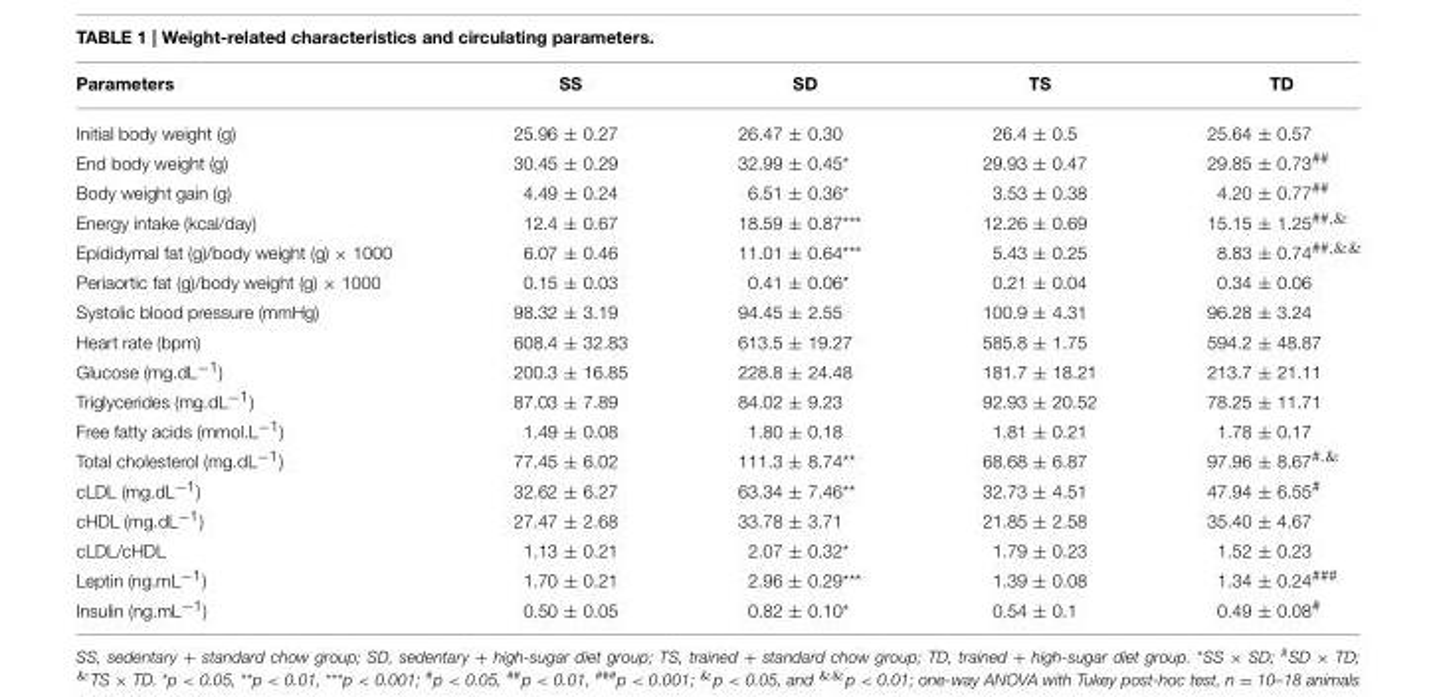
<table><thead><tr><td>Parameters</td><td>SS</td><td>SD</td><td>TS</td><td>TD</td></tr></thead><tbody><tr><td>Initial body weight (g)</td><td>25.96 ± 0.27</td><td>26.47 ± 0.30</td><td>26.4 ± 0.5</td><td>25.64 ± 0.57</td></tr><tr><td>End body weight (g)</td><td>30.45 ± 0.29</td><td>32.99 ± 0.45*</td><td>29.93 ± 0.47</td><td>29.85 ± 0.73<sup>##</sup></td></tr><tr><td>Body weight gain (g)</td><td>4.49 ± 0.24</td><td>6.51 ± 0.36*</td><td>3.53 ± 0.38</td><td>4.20 ± 0.77<sup>##</sup></td></tr><tr><td>Energy intake (kcal/day)</td><td>12.4 ± 0.67</td><td>18.59 ± 0.87***</td><td>12.26 ± 0.69</td><td>15.15 ± 1.25<sup>##,&amp;</sup></td></tr><tr><td>Epididymal fat (g)/body weight (g) × 1000</td><td>6.07 ± 0.46</td><td>11.01 ± 0.64***</td><td>5.43 ± 0.25</td><td>8.83 ± 0.74<sup>##,&amp;&amp;</sup></td></tr><tr><td>Periaortic fat (g)/body weight (g) × 1000</td><td>0.15 ± 0.03</td><td>0.41 ± 0.06*</td><td>0.21 ± 0.04</td><td>0.34 ± 0.06</td></tr><tr><td>Systolic blood pressure (mmHg)</td><td>98.32 ± 3.19</td><td>94.45 ± 2.55</td><td>100.9 ± 4.31</td><td>96.28 ± 3.24</td></tr><tr><td>Heart rate (bpm)</td><td>608.4 ± 32.83</td><td>613.5 ± 19.27</td><td>585.8 ± 1.75</td><td>594.2 ± 48.87</td></tr><tr><td>Glucose (mg.dL<sup>−1</sup>)</td><td>200.3 ± 16.85</td><td>228.8 ± 24.48</td><td>181.7 ± 18.21</td><td>213.7 ± 21.11</td></tr><tr><td>Triglycerides (mg.dL<sup>−1</sup>)</td><td>87.03 ± 7.89</td><td>84.02 ± 9.23</td><td>92.93 ± 20.52</td><td>78.25 ± 11.71</td></tr><tr><td>Free fatty acids (mmol.L<sup>−1</sup>)</td><td>1.49 ± 0.08</td><td>1.80 ± 0.18</td><td>1.81 ± 0.21</td><td>1.78 ± 0.17</td></tr><tr><td>Total cholesterol (mg.dL<sup>−1</sup>)</td><td>77.45 ± 6.02</td><td>111.3 ± 8.74**</td><td>68.68 ± 6.87</td><td>97.96 ± 8.67<sup>#,&amp;</sup></td></tr><tr><td>cLDL (mg.dL<sup>−1</sup>)</td><td>32.62 ± 6.27</td><td>63.34 ± 7.46**</td><td>32.73 ± 4.51</td><td>47.94 ± 6.55<sup>#</sup></td></tr><tr><td>cHDL (mg.dL<sup>−1</sup>)</td><td>27.47 ± 2.68</td><td>33.78 ± 3.71</td><td>21.85 ± 2.58</td><td>35.40 ± 4.67</td></tr><tr><td>cLDL/cHDL</td><td>1.13 ± 0.21</td><td>2.07 ± 0.32*</td><td>1.79 ± 0.23</td><td>1.52 ± 0.23</td></tr><tr><td>Leptin (ng.mL<sup>−1</sup>)</td><td>1.70 ± 0.21</td><td>2.96 ± 0.29***</td><td>1.39 ± 0.08</td><td>1.34 ± 0.24<sup>###</sup></td></tr><tr><td>Insulin (ng.mL<sup>−1</sup>)</td><td>0.50 ± 0.05</td><td>0.82 ± 0.10*</td><td>0.54 ± 0.1</td><td>0.49 ± 0.08<sup>#</sup></td></tr></tbody></table>